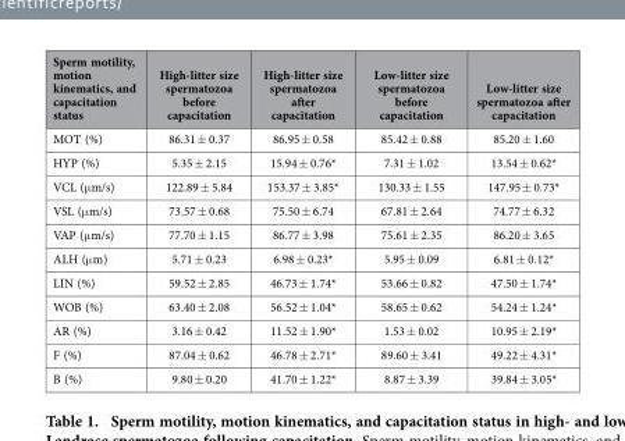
<table><thead><tr><td>Sperm motility, motion kinematics, and capacitation status</td><td>High-litter size spermatozoa before capacitation</td><td>High-litter size spermatozoa after capacitation</td><td>Low-litter size spermatozoa before capacitation</td><td>Low-litter size spermatozoa after capacitation</td></tr></thead><tbody><tr><td>MOT (%)</td><td>86.31 ± 0.37</td><td>86.95 ± 0.58</td><td>85.42 ± 0.88</td><td>85.20 ± 1.60</td></tr><tr><td>HYP (%)</td><td>5.35 ± 2.15</td><td>15.94 ± 0.76*</td><td>7.31 ± 1.02</td><td>13.54 ± 0.62*</td></tr><tr><td>VCL (μ m/s)</td><td>122.89 ± 5.84</td><td>153.37 ± 3.85*</td><td>130.33 ± 1.55</td><td>147.95 ± 0.73*</td></tr><tr><td>VSL (μ m/s)</td><td>73.57 ± 0.68</td><td>75.50 ± 6.74</td><td>67.81 ± 2.64</td><td>74.77 ± 6.32</td></tr><tr><td>VAP (μ m/s)</td><td>77.70 ± 1.15</td><td>86.77 ± 3.98</td><td>75.61 ± 2.35</td><td>86.20 ± 3.65</td></tr><tr><td>ALH (μ m)</td><td>5.71 ± 0.23</td><td>6.98 ± 0.23*</td><td>5.95 ± 0.09</td><td>6.81 ± 0.12*</td></tr><tr><td>LIN (%)</td><td>59.52 ± 2.85</td><td>46.73 ± 1.74*</td><td>53.66 ± 0.82</td><td>47.50 ± 1.74*</td></tr><tr><td>WOB (%)</td><td>63.40 ± 2.08</td><td>56.52 ± 1.04*</td><td>58.65 ± 0.62</td><td>54.24 ± 1.24*</td></tr><tr><td>AR (%)</td><td>3.16 ± 0.42</td><td>11.52 ± 1.90*</td><td>1.53 ± 0.02</td><td>10.95 ± 2.19*</td></tr><tr><td>F (%)</td><td>87.04 ± 0.62</td><td>46.78 ± 2.71*</td><td>89.60 ± 3.41</td><td>49.22 ± 4.31*</td></tr><tr><td>B (%)</td><td>9.80 ± 0.20</td><td>41.70 ± 1.22*</td><td>8.87 ± 3.39</td><td>39.84 ± 3.05*</td></tr></tbody></table>